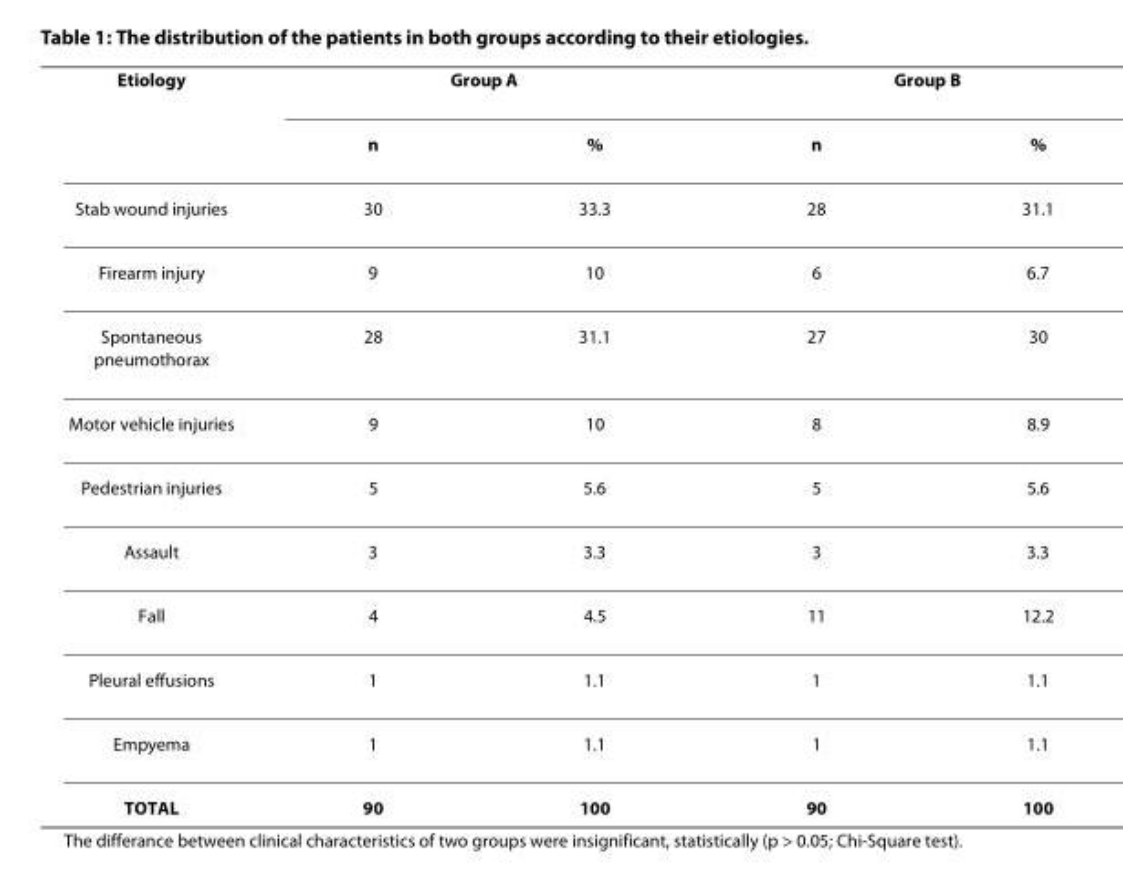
<table><thead><tr><td rowspan="2">Etiology</td><td colspan="2">Group A</td><td colspan="2">Group B</td></tr><tr><td>n</td><td>%</td><td>n</td><td>%</td></tr></thead><tbody><tr><td>Stab wound injuries</td><td>30</td><td>33.3</td><td>28</td><td>31.1</td></tr><tr><td>Firearm injury</td><td>9</td><td>10</td><td>6</td><td>6.7</td></tr><tr><td>Spontaneous pneumothorax</td><td>28</td><td>31.1</td><td>27</td><td>30</td></tr><tr><td>Motor vehicle injuries</td><td>9</td><td>10</td><td>8</td><td>8.9</td></tr><tr><td>Pedestrian injuries</td><td>5</td><td>5.6</td><td>5</td><td>5.6</td></tr><tr><td>Assault</td><td>3</td><td>3.3</td><td>3</td><td>3.3</td></tr><tr><td>Fall</td><td>4</td><td>4.5</td><td>11</td><td>12.2</td></tr><tr><td>Pleural effusions</td><td>1</td><td>1.1</td><td>1</td><td>1.1</td></tr><tr><td>Empyema</td><td>1</td><td>1.1</td><td>1</td><td>1.1</td></tr><tr><td>TOTAL</td><td>90</td><td>100</td><td>90</td><td>100</td></tr></tbody></table>